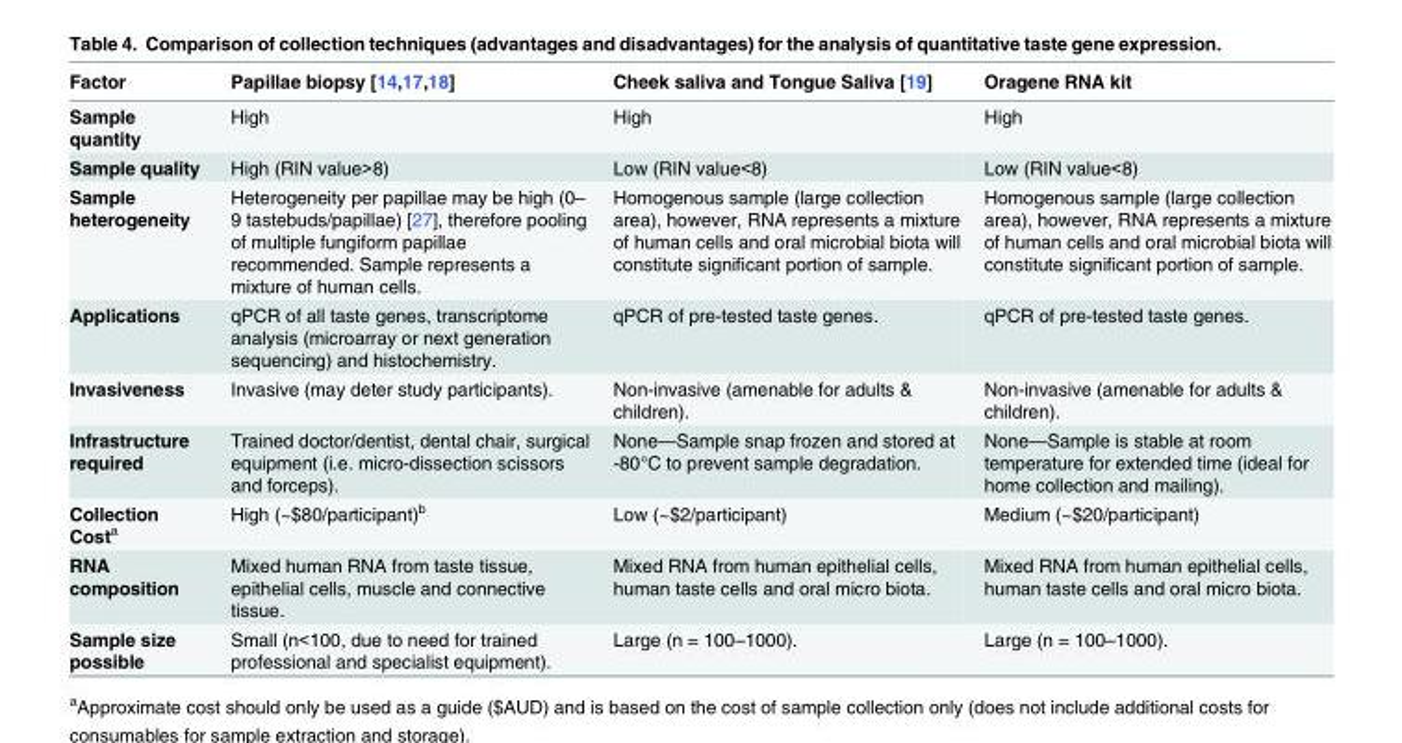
<table><thead><tr><td>Factor</td><td>Papillae biopsy [14,17,18]</td><td>Cheek saliva and Tongue Saliva [19]</td><td>Oragene RNA kit</td></tr></thead><tbody><tr><td>Sample quantity</td><td>High</td><td>High</td><td>High</td></tr><tr><td>Sample quality</td><td>High (RIN value&gt;8)</td><td>Low (RIN value&lt;8)</td><td>Low (RIN value&lt;8)</td></tr><tr><td>Sample heterogeneity</td><td>Heterogeneity per papillae may be high (0– 9 tastebuds/papillae) [27], therefore pooling of multiple fungiform papillae recommended. Sample represents a mixture of human cells.</td><td>Homogenous sample (large collection area), however, RNA represents a mixture of human cells and oral microbial biota will constitute significant portion of sample.</td><td>Homogenous sample (large collection area), however, RNA represents a mixture of human cells and oral microbial biota will constitute significant portion of sample.</td></tr><tr><td>Applications</td><td>qPCR of all taste genes, transcriptome analysis (microarray or next generation sequencing) and histochemistry.</td><td>qPCR of pre-tested taste genes.</td><td>qPCR of pre-tested taste genes.</td></tr><tr><td>Invasiveness</td><td>Invasive (may deter study participants).</td><td>Non-invasive (amenable for adults &amp; children).</td><td>Non-invasive (amenable for adults &amp; children).</td></tr><tr><td>Infrastructure required</td><td>Trained doctor/dentist, dental chair, surgical equipment (i.e. micro-dissection scissors and forceps).</td><td>None—Sample snap frozen and stored at -80°C to prevent sample degradation.</td><td>None—Sample is stable at room temperature for extended time (ideal for home collection and mailing).</td></tr><tr><td>Collection Cost<sup>a</sup></td><td>High (~$80/participant)<sup>b</sup></td><td>Low (~$2/participant)</td><td>Medium (~$20/participant)</td></tr><tr><td>RNA composition</td><td>Mixed human RNA from taste tissue, epithelial cells, muscle and connective tissue.</td><td>Mixed RNA from human epithelial cells, human taste cells and oral micro biota.</td><td>Mixed RNA from human epithelial cells, human taste cells and oral micro biota.</td></tr><tr><td>Sample size possible</td><td>Small (n&lt;100, due to need for trained professional and specialist equipment).</td><td>Large (n = 100–1000).</td><td>Large (n = 100–1000).</td></tr></tbody></table>